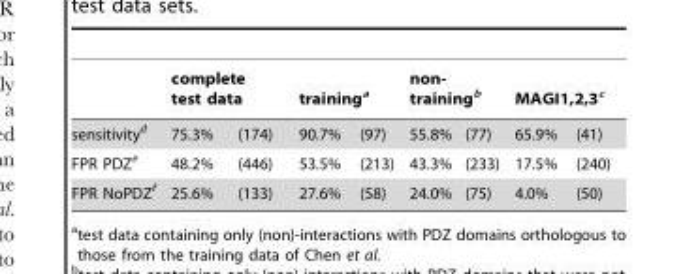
<table><thead><tr><td rowspan="2">sensitivity<sup>d</sup></td><td colspan="2">complete test data</td><td colspan="2">training<sup>a</sup></td><td colspan="2">non- training<sup>b</sup></td><td colspan="2">MAGI1,2,3<sup>c</sup></td></tr><tr><td>75.3%</td><td>(174)</td><td>90.7%</td><td>(97)</td><td>55.8%</td><td>(77)</td><td>65.9%</td><td>(41)</td></tr></thead><tbody><tr><td>FPR PDZ<sup>e</sup></td><td>48.2%</td><td>(446)</td><td>53.5%</td><td>(213)</td><td>43.3%</td><td>(233)</td><td>17.5%</td><td>(240)</td></tr><tr><td>FPR NoPDZ<sup>f</sup></td><td>25.6%</td><td>(133)</td><td>27.6%</td><td>(58)</td><td>24.0%</td><td>(75)</td><td>4.0%</td><td>(50)</td></tr></tbody></table>